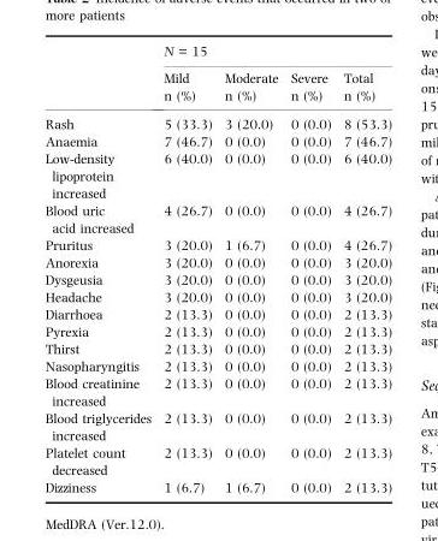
<table><thead><tr><td rowspan="2"></td><td colspan="4">N = 15</td></tr><tr><td>Mild n (%)</td><td>Moderate n (%)</td><td>Severe n (%)</td><td>Total n (%)</td></tr></thead><tbody><tr><td>Rash</td><td>5 (33.3)</td><td>3 (20.0)</td><td>0 (0.0)</td><td>8 (53.3)</td></tr><tr><td>Anaemia</td><td>7 (46.7)</td><td>0 (0.0)</td><td>0 (0.0)</td><td>7 (46.7)</td></tr><tr><td>Low-density lipoprotein increased</td><td>6 (40.0)</td><td>0 (0.0)</td><td>0 (0.0)</td><td>6 (40.0)</td></tr><tr><td>Blood uric acid increased</td><td>4 (26.7)</td><td>0 (0.0)</td><td>0 (0.0)</td><td>4 (26.7)</td></tr><tr><td>Pruritus</td><td>3 (20.0)</td><td>1 (6.7)</td><td>0 (0.0)</td><td>4 (26.7)</td></tr><tr><td>Anorexia</td><td>3 (20.0)</td><td>0 (0.0)</td><td>0 (0.0)</td><td>3 (20.0)</td></tr><tr><td>Dysgeusia</td><td>3 (20.0)</td><td>0 (0.0)</td><td>0 (0.0)</td><td>3 (20.0)</td></tr><tr><td>Headache</td><td>3 (20.0)</td><td>0 (0.0)</td><td>0 (0.0)</td><td>3 (20.0)</td></tr><tr><td>Diarrhoea</td><td>2 (13.3)</td><td>0 (0.0)</td><td>0 (0.0)</td><td>2 (13.3)</td></tr><tr><td>Pyrexia</td><td>2 (13.3)</td><td>0 (0.0)</td><td>0 (0.0)</td><td>2 (13.3)</td></tr><tr><td>Thirst</td><td>2 (13.3)</td><td>0 (0.0)</td><td>0 (0.0)</td><td>2 (13.3)</td></tr><tr><td>Nasopharyngitis</td><td>2 (13.3)</td><td>0 (0.0)</td><td>0 (0.0)</td><td>2 (13.3)</td></tr><tr><td>Blood creatinine increased</td><td>2 (13.3)</td><td>0 (0.0)</td><td>0 (0.0)</td><td>2 (13.3)</td></tr><tr><td>Blood triglycerides increased</td><td>2 (13.3)</td><td>0 (0.0)</td><td>0 (0.0)</td><td>2 (13.3)</td></tr><tr><td>Platelet count decreased</td><td>2 (13.3)</td><td>0 (0.0)</td><td>0 (0.0)</td><td>2 (13.3)</td></tr><tr><td>Dizziness</td><td>1 (6.7)</td><td>1 (6.7)</td><td>0 (0.0)</td><td>2 (13.3)</td></tr></tbody></table>